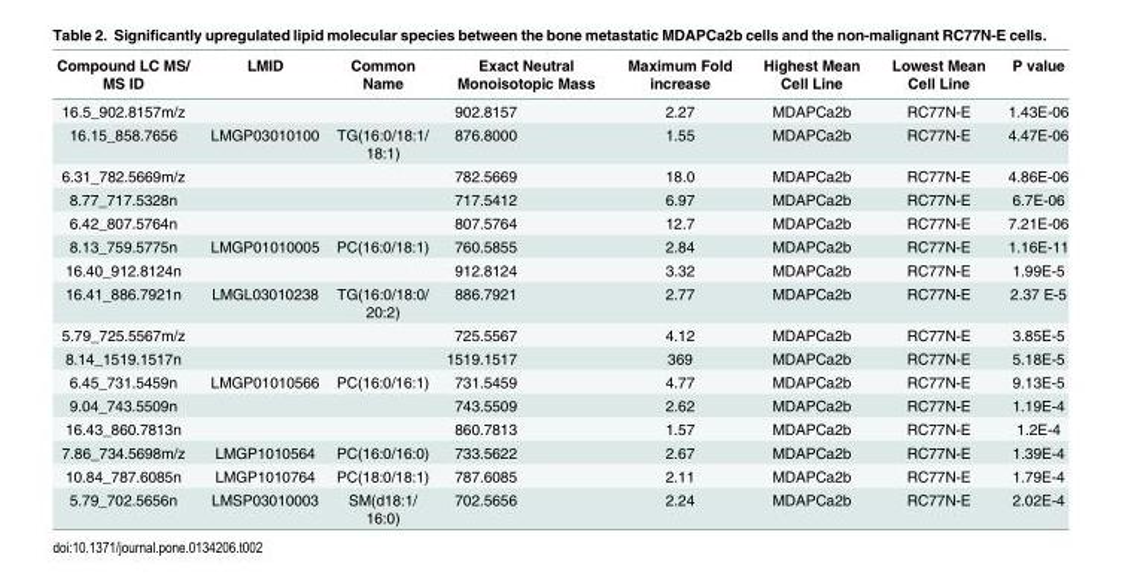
<table><thead><tr><td>Compound LC MS/ MS ID</td><td>LMID</td><td>Common Name</td><td>Exact Neutral Monoisotopic Mass</td><td>Maximum Fold increase</td><td>Highest Mean Cell Line</td><td>Lowest Mean Cell Line</td><td>P value</td></tr></thead><tbody><tr><td>16.5_902.8157m/z</td><td></td><td></td><td>902.8157</td><td>2.27</td><td>MDAPCa2b</td><td>RC77N-E</td><td>1.43E-06</td></tr><tr><td>16.15_858.7656</td><td>LMGP03010100</td><td>TG(16:0/18:1/ 18:1)</td><td>876.8000</td><td>1.55</td><td>MDAPCa2b</td><td>RC77N-E</td><td>4.47E-06</td></tr><tr><td>6.31_782.5669m/z</td><td></td><td></td><td>782.5669</td><td>18.0</td><td>MDAPCa2b</td><td>RC77N-E</td><td>4.86E-06</td></tr><tr><td>8.77_717.5328n</td><td></td><td></td><td>717.5412</td><td>6.97</td><td>MDAPCa2b</td><td>RC77N-E</td><td>6.7E-06</td></tr><tr><td>6.42_807.5764n</td><td></td><td></td><td>807.5764</td><td>12.7</td><td>MDAPCa2b</td><td>RC77N-E</td><td>7.21E-06</td></tr><tr><td>8.13_759.5775n</td><td>LMGP01010005</td><td>PC(16:0/18:1)</td><td>760.5855</td><td>2.84</td><td>MDAPCa2b</td><td>RC77N-E</td><td>1.16E-11</td></tr><tr><td>16.40_912.8124n</td><td></td><td></td><td>912.8124</td><td>3.32</td><td>MDAPCa2b</td><td>RC77N-E</td><td>1.99E-5</td></tr><tr><td>16.41_886.7921n</td><td>LMGL03010238</td><td>TG(16:0/18:0/ 20:2)</td><td>886.7921</td><td>2.77</td><td>MDAPCa2b</td><td>RC77N-E</td><td>2.37 E-5</td></tr><tr><td>5.79_725.5567m/z</td><td></td><td></td><td>725.5567</td><td>4.12</td><td>MDAPCa2b</td><td>RC77N-E</td><td>3.85E-5</td></tr><tr><td>8.14_1519.1517n</td><td></td><td></td><td>1519.1517</td><td>369</td><td>MDAPCa2b</td><td>RC77N-E</td><td>5.18E-5</td></tr><tr><td>6.45_731.5459n</td><td>LMGP01010566</td><td>PC(16:0/16:1)</td><td>731.5459</td><td>4.77</td><td>MDAPCa2b</td><td>RC77N-E</td><td>9.13E-5</td></tr><tr><td>9.04_743.5509n</td><td></td><td></td><td>743.5509</td><td>2.62</td><td>MDAPCa2b</td><td>RC77N-E</td><td>1.19E-4</td></tr><tr><td>16.43_860.7813n</td><td></td><td></td><td>860.7813</td><td>1.57</td><td>MDAPCa2b</td><td>RC77N-E</td><td>1.2E-4</td></tr><tr><td>7.86_734.5698m/z</td><td>LMGP1010564</td><td>PC(16:0/16:0)</td><td>733.5622</td><td>2.67</td><td>MDAPCa2b</td><td>RC77N-E</td><td>1.39E-4</td></tr><tr><td>10.84_787.6085n</td><td>LMGP1010764</td><td>PC(18:0/18:1)</td><td>787.6085</td><td>2.11</td><td>MDAPCa2b</td><td>RC77N-E</td><td>1.79E-4</td></tr><tr><td>5.79_702.5656n</td><td>LMSP03010003</td><td>SM(d18:1/ 16:0)</td><td>702.5656</td><td>2.24</td><td>MDAPCa2b</td><td>RC77N-E</td><td>2.02E-4</td></tr></tbody></table>